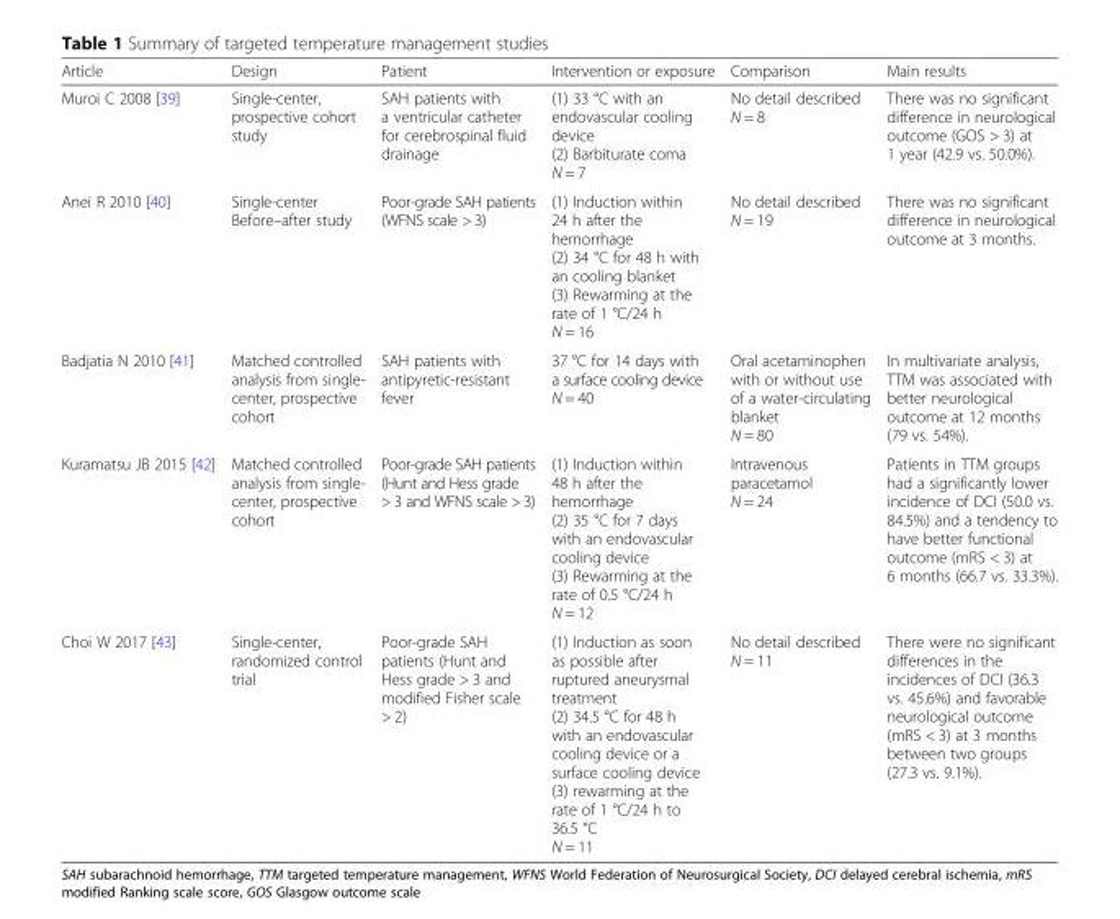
<table><thead><tr><td>Article</td><td>Design</td><td>Patient</td><td>Intervention or exposure</td><td>Comparison</td><td>Main results</td></tr></thead><tbody><tr><td>Muroi C 2008 [39]</td><td>Single-center, prospective cohort study</td><td>SAH patients with a ventricular catheter for cerebrospinal fluid drainage</td><td>(1) 33 °C with an endovascular cooling device (2) Barbiturate coma N = 7</td><td>No detail described N = 8</td><td>There was no significant difference in neurological outcome (GOS &gt; 3) at 1 year (42.9 vs. 50.0%).</td></tr><tr><td>Anei R 2010 [40]</td><td>Single-center Before–after study</td><td>Poor-grade SAH patients (WFNS scale &gt; 3)</td><td>(1) Induction within 24 h after the hemorrhage (2) 34 °C for 48 h with an cooling blanket (3) Rewarming at the rate of 1 °C/24 h N = 16</td><td>No detail described N = 19</td><td>There was no significant difference in neurological outcome at 3 months.</td></tr><tr><td>Badjatia N 2010 [41]</td><td>Matched controlled analysis from single- center, prospective cohort</td><td>SAH patients with antipyretic-resistant fever</td><td>37 °C for 14 days with a surface cooling device N = 40</td><td>Oral acetaminophen with or without use of a water-circulating blanket N = 80</td><td>In multivariate analysis, TTM was associated with better neurological outcome at 12 months (79 vs. 54%).</td></tr><tr><td>Kuramatsu JB 2015 [42]</td><td>Matched controlled analysis from single- center, prospective cohort</td><td>Poor-grade SAH patients (Hunt and Hess grade &gt; 3 and WFNS scale &gt; 3)</td><td>(1) Induction within 48 h after the hemorrhage (2) 35 °C for 7 days with an endovascular cooling device (3) Rewarming at the rate of 0.5 °C/24 h N = 12</td><td>Intravenous paracetamol N = 24</td><td>Patients in TTM groups had a significantly lower incidence of DCI (50.0 vs. 84.5%) and a tendency to have better functional outcome (mRS &lt; 3) at 6 months (66.7 vs. 33.3%).</td></tr><tr><td>Choi W 2017 [43]</td><td>Single-center, randomized control trial</td><td>Poor-grade SAH patients (Hunt and Hess grade &gt; 3 and modified Fisher scale &gt; 2)</td><td>(1) Induction as soon as possible after ruptured aneurysmal treatment (2) 34.5 °C for 48 h with an endovascular cooling device or a surface cooling device (3) rewarming at the rate of 1 °C/24 h to 36.5 °C N = 11</td><td>No detail described N = 11</td><td>There were no significant differences in the incidences of DCI (36.3 vs. 45.6%) and favorable neurological outcome (mRS &lt; 3) at 3 months between two groups (27.3 vs. 9.1%).</td></tr></tbody></table>